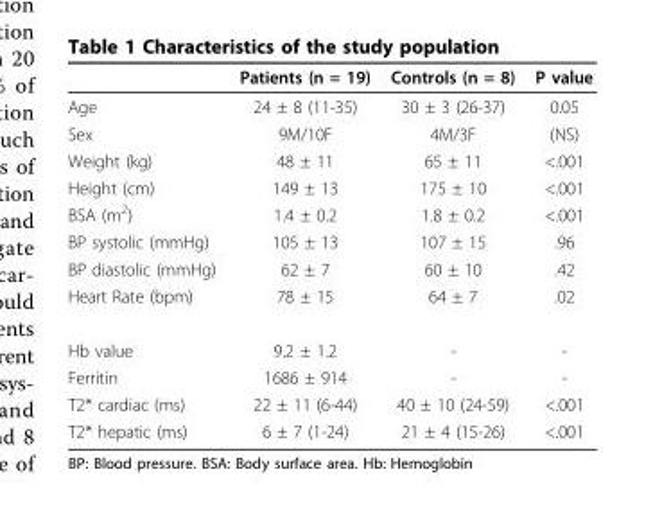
<table><thead><tr><td></td><td>Patients (n = 19)</td><td>Controls (n = 8)</td><td>P value</td></tr></thead><tbody><tr><td>Age</td><td>24 ± 8 (11-35)</td><td>30 ± 3 (26-37)</td><td>0.05</td></tr><tr><td>Sex</td><td>9M/10F</td><td>4M/3F</td><td>(NS)</td></tr><tr><td>Weight (kg)</td><td>48 ± 11</td><td>65 ± 11</td><td>&lt;.001</td></tr><tr><td>Height (cm)</td><td>149 ± 13</td><td>175 ± 10</td><td>&lt;.001</td></tr><tr><td>BSA (m<sup>2</sup>)</td><td>1.4 ± 0.2</td><td>1.8 ± 0.2</td><td>&lt;.001</td></tr><tr><td>BP systolic (mmHg)</td><td>105 ± 13</td><td>107 ± 15</td><td>.96</td></tr><tr><td>BP diastolic (mmHg)</td><td>62 ± 7</td><td>60 ± 10</td><td>.42</td></tr><tr><td>Heart Rate (bpm)</td><td>78 ± 15</td><td>64 ± 7</td><td>.02</td></tr><tr><td>Hb value</td><td>9.2 ± 1.2</td><td>-</td><td>-</td></tr><tr><td>Ferritin</td><td>1686 ± 914</td><td>-</td><td>-</td></tr><tr><td>T2* cardiac (ms)</td><td>22 ± 11 (6-44)</td><td>40 ± 10 (24-59)</td><td>&lt;.001</td></tr><tr><td>T2* hepatic (ms)</td><td>6 ± 7 (1-24)</td><td>21 ± 4 (15-26)</td><td>&lt;.001</td></tr></tbody></table>